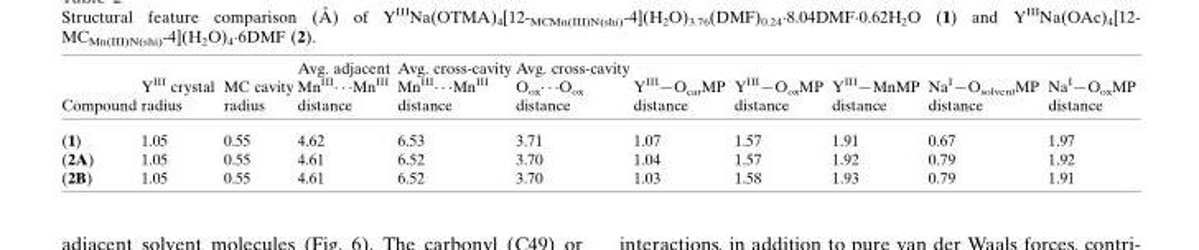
<table><thead><tr><td>Compound</td><td>Y<sup>III</sup> crystal radius</td><td>MC cavity radius</td><td>Avg. adjacent MnIII� � �MnIII distance</td><td>Avg. cross-cavity MnIII� � �MnIII distance</td><td>Avg. cross-cavity Oox� � �Oox distance</td><td>YIII—OcarMP distance</td><td>YIII—OoxMP distance</td><td>YIII—MnMP distance</td><td>NaI—OsolventMP distance</td><td>NaI—OoxMP distance</td></tr></thead><tbody><tr><td>(1)</td><td>1.05</td><td>0.55</td><td>4.62</td><td>6.53</td><td>3.71</td><td>1.07</td><td>1.57</td><td>1.91</td><td>0.67</td><td>1.97</td></tr><tr><td>(2A)</td><td>1.05</td><td>0.55</td><td>4.61</td><td>6.52</td><td>3.70</td><td>1.04</td><td>1.57</td><td>1.92</td><td>0.79</td><td>1.92</td></tr><tr><td>(2B)</td><td>1.05</td><td>0.55</td><td>4.61</td><td>6.52</td><td>3.70</td><td>1.03</td><td>1.58</td><td>1.93</td><td>0.79</td><td>1.91</td></tr></tbody></table>